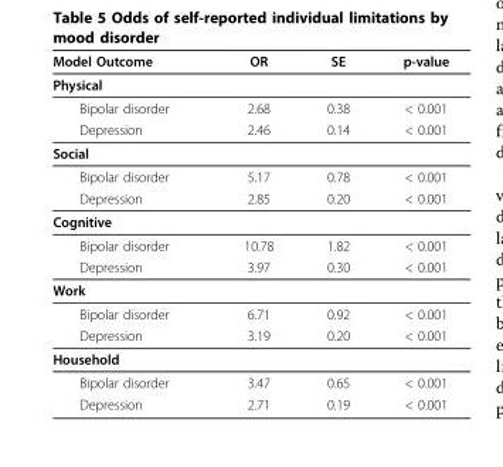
<table><thead><tr><td>Model Outcome</td><td>OR</td><td>SE</td><td>p-value</td></tr></thead><tbody><tr><td colspan="4">Physical</td></tr><tr><td>Bipolar disorder</td><td>2.68</td><td>0.38</td><td>&lt; 0.001</td></tr><tr><td>Depression</td><td>2.46</td><td>0.14</td><td>&lt; 0.001</td></tr><tr><td colspan="4">Social</td></tr><tr><td>Bipolar disorder</td><td>5.17</td><td>0.78</td><td>&lt; 0.001</td></tr><tr><td>Depression</td><td>2.85</td><td>0.20</td><td>&lt; 0.001</td></tr><tr><td colspan="4">Cognitive</td></tr><tr><td>Bipolar disorder</td><td>10.78</td><td>1.82</td><td>&lt; 0.001</td></tr><tr><td>Depression</td><td>3.97</td><td>0.30</td><td>&lt; 0.001</td></tr><tr><td colspan="4">Work</td></tr><tr><td>Bipolar disorder</td><td>6.71</td><td>0.92</td><td>&lt; 0.001</td></tr><tr><td>Depression</td><td>3.19</td><td>0.20</td><td>&lt; 0.001</td></tr><tr><td colspan="4">Household</td></tr><tr><td>Bipolar disorder</td><td>3.47</td><td>0.65</td><td>&lt; 0.001</td></tr><tr><td>Depression</td><td>2.71</td><td>0.19</td><td>&lt; 0.001</td></tr></tbody></table>